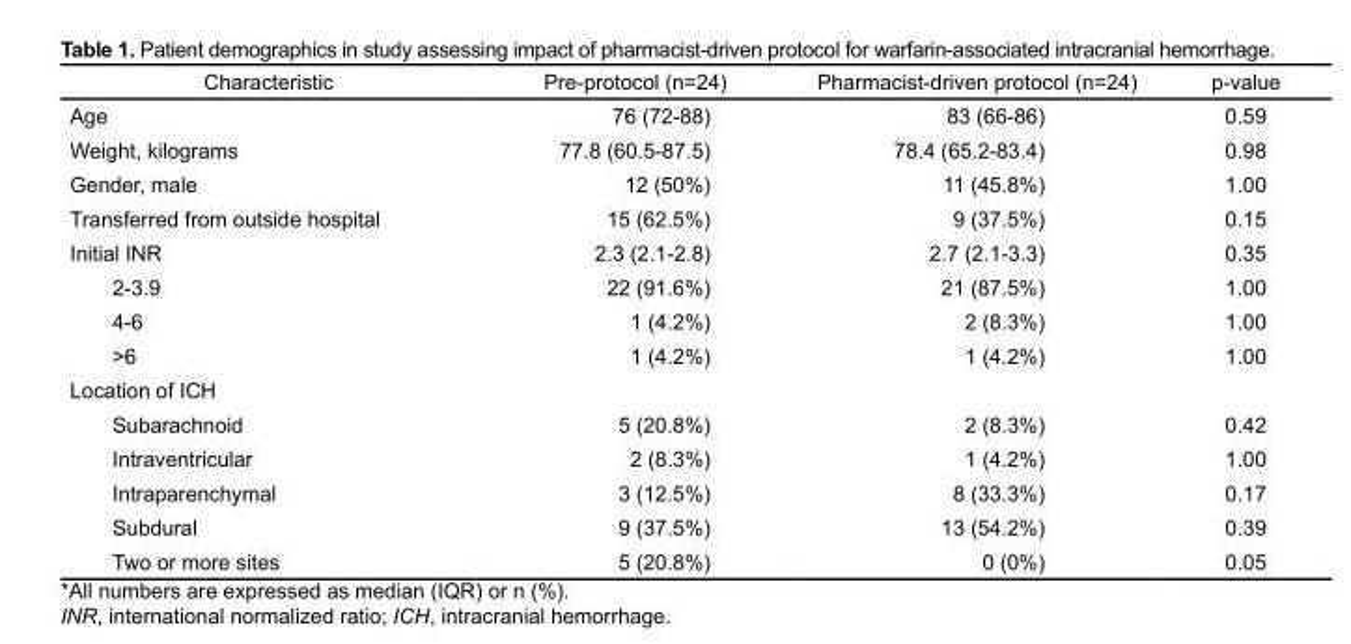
<table><thead><tr><td>Characteristic</td><td>Pre-protocol (n=24)</td><td>Pharmacist-driven protocol (n=24)</td><td>p-value</td></tr></thead><tbody><tr><td>Age</td><td>76 (72-88)</td><td>83 (66-86)</td><td>0.59</td></tr><tr><td>Weight, kilograms</td><td>77.8 (60.5-87.5)</td><td>78.4 (65.2-83.4)</td><td>0.98</td></tr><tr><td>Gender, male</td><td>12 (50%)</td><td>11 (45.8%)</td><td>1.00</td></tr><tr><td>Transferred from outside hospital</td><td>15 (62.5%)</td><td>9 (37.5%)</td><td>0.15</td></tr><tr><td>Initial INR</td><td>2.3 (2.1-2.8)</td><td>2.7 (2.1-3.3)</td><td>0.35</td></tr><tr><td>2-3.9</td><td>22 (91.6%)</td><td>21 (87.5%)</td><td>1.00</td></tr><tr><td>4-6</td><td>1 (4.2%)</td><td>2 (8.3%)</td><td>1.00</td></tr><tr><td>&gt;6</td><td>1 (4.2%)</td><td>1 (4.2%)</td><td>1.00</td></tr><tr><td colspan="4">Location of ICH</td></tr><tr><td>Subarachnoid</td><td>5 (20.8%)</td><td>2 (8.3%)</td><td>0.42</td></tr><tr><td>Intraventricular</td><td>2 (8.3%)</td><td>1 (4.2%)</td><td>1.00</td></tr><tr><td>Intraparenchymal</td><td>3 (12.5%)</td><td>8 (33.3%)</td><td>0.17</td></tr><tr><td>Subdural</td><td>9 (37.5%)</td><td>13 (54.2%)</td><td>0.39</td></tr><tr><td>Two or more sites</td><td>5 (20.8%)</td><td>0 (0%)</td><td>0.05</td></tr></tbody></table>